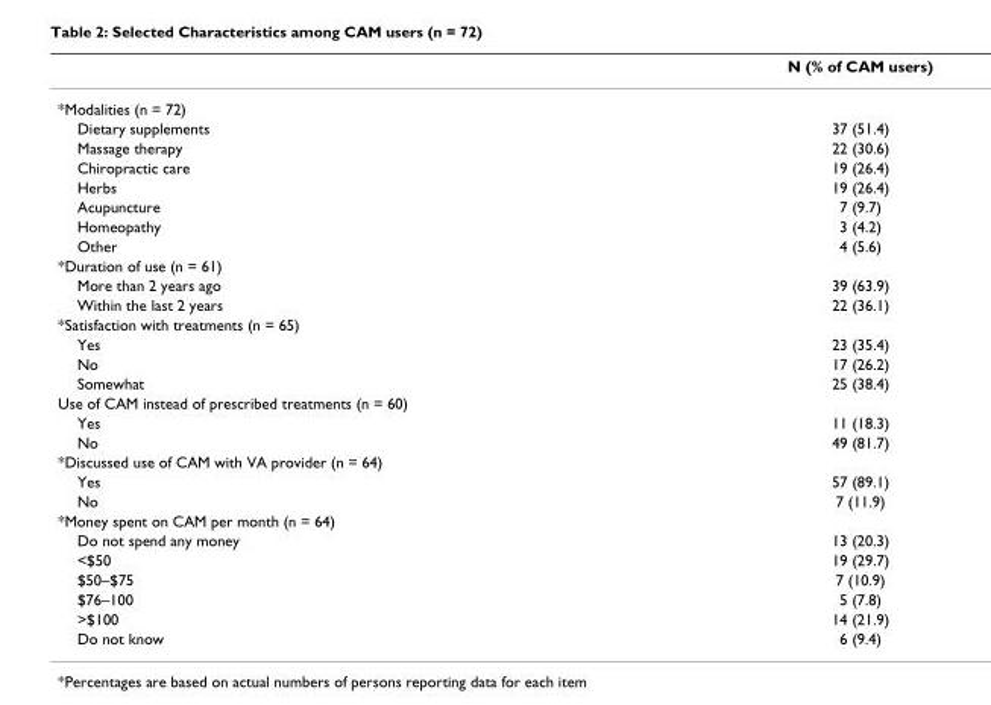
<table><thead><tr><td></td><td>N (% of CAM users)</td></tr></thead><tbody><tr><td colspan="2">*Modalities (n = 72)</td></tr><tr><td>Dietary supplements</td><td>37 (51.4)</td></tr><tr><td>Massage therapy</td><td>22 (30.6)</td></tr><tr><td>Chiropractic care</td><td>19 (26.4)</td></tr><tr><td>Herbs</td><td>19 (26.4)</td></tr><tr><td>Acupuncture</td><td>7 (9.7)</td></tr><tr><td>Homeopathy</td><td>3 (4.2)</td></tr><tr><td>Other</td><td>4 (5.6)</td></tr><tr><td colspan="2">*Duration of use (n = 61)</td></tr><tr><td>More than 2 years ago</td><td>39 (63.9)</td></tr><tr><td>Within the last 2 years</td><td>22 (36.1)</td></tr><tr><td colspan="2">*Satisfaction with treatments (n = 65)</td></tr><tr><td>Yes</td><td>23 (35.4)</td></tr><tr><td>No</td><td>17 (26.2)</td></tr><tr><td>Somewhat</td><td>25 (38.4)</td></tr><tr><td colspan="2">Use of CAM instead of prescribed treatments (n = 60)</td></tr><tr><td>Yes</td><td>11 (18.3)</td></tr><tr><td>No</td><td>49 (81.7)</td></tr><tr><td colspan="2">*Discussed use of CAM with VA provider (n = 64)</td></tr><tr><td>Yes</td><td>57 (89.1)</td></tr><tr><td>No</td><td>7 (11.9)</td></tr><tr><td colspan="2">*Money spent on CAM per month (n = 64)</td></tr><tr><td>Do not spend any money</td><td>13 (20.3)</td></tr><tr><td>&lt;$50</td><td>19 (29.7)</td></tr><tr><td>$50–$75</td><td>7 (10.9)</td></tr><tr><td>$76–100</td><td>5 (7.8)</td></tr><tr><td>&gt;$100</td><td>14 (21.9)</td></tr><tr><td>Do not know</td><td>6 (9.4)</td></tr></tbody></table>